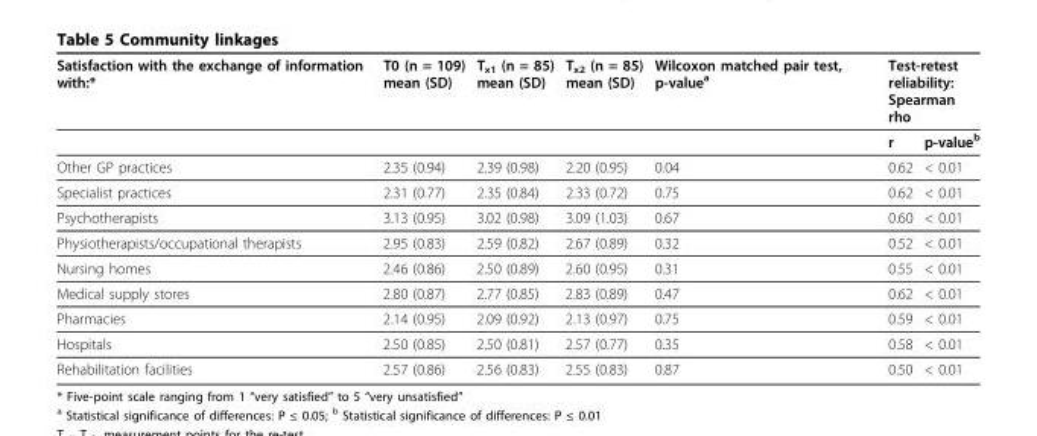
<table><thead><tr><td rowspan="2">Satisfaction with the exchange of information with:*</td><td rowspan="2">T0 (n = 109) mean (SD)</td><td rowspan="2">T<sub>x1</sub> (n = 85) mean (SD)</td><td rowspan="2">T<sub>x2</sub> (n = 85) mean (SD)</td><td rowspan="2">Wilcoxon matched pair test, p-value<sup>a</sup></td><td colspan="2">Test-retest reliability: Spearman rho</td></tr><tr><td>r</td><td>p-value<sup>b</sup></td></tr></thead><tbody><tr><td>Other GP practices</td><td>2.35 (0.94)</td><td>2.39 (0.98)</td><td>2.20 (0.95)</td><td>0.04</td><td>0.62</td><td>&lt; 0.01</td></tr><tr><td>Specialist practices</td><td>2.31 (0.77)</td><td>2.35 (0.84)</td><td>2.33 (0.72)</td><td>0.75</td><td>0.62</td><td>&lt; 0.01</td></tr><tr><td>Psychotherapists</td><td>3.13 (0.95)</td><td>3.02 (0.98)</td><td>3.09 (1.03)</td><td>0.67</td><td>0.60</td><td>&lt; 0.01</td></tr><tr><td>Physiotherapists/occupational therapists</td><td>2.95 (0.83)</td><td>2.59 (0.82)</td><td>2.67 (0.89)</td><td>0.32</td><td>0.52</td><td>&lt; 0.01</td></tr><tr><td>Nursing homes</td><td>2.46 (0.86)</td><td>2.50 (0.89)</td><td>2.60 (0.95)</td><td>0.31</td><td>0.55</td><td>&lt; 0.01</td></tr><tr><td>Medical supply stores</td><td>2.80 (0.87)</td><td>2.77 (0.85)</td><td>2.83 (0.89)</td><td>0.47</td><td>0.62</td><td>&lt; 0.01</td></tr><tr><td>Pharmacies</td><td>2.14 (0.95)</td><td>2.09 (0.92)</td><td>2.13 (0.97)</td><td>0.75</td><td>0.59</td><td>&lt; 0.01</td></tr><tr><td>Hospitals</td><td>2.50 (0.85)</td><td>2.50 (0.81)</td><td>2.57 (0.77)</td><td>0.35</td><td>0.58</td><td>&lt; 0.01</td></tr><tr><td>Rehabilitation facilities</td><td>2.57 (0.86)</td><td>2.56 (0.83)</td><td>2.55 (0.83)</td><td>0.87</td><td>0.50</td><td>&lt; 0.01</td></tr></tbody></table>